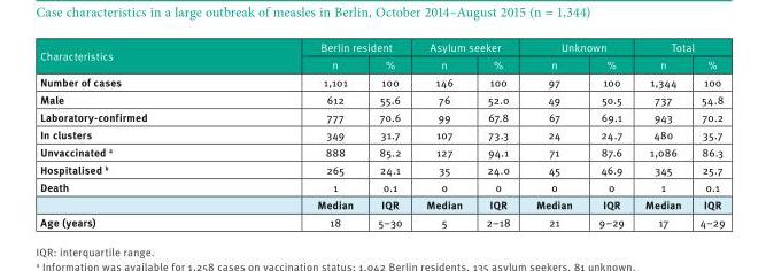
<table><thead><tr><td rowspan="2">Characteristics</td><td colspan="2">Berlin resident</td><td colspan="2">Asylum seeker</td><td colspan="2">Unknown</td><td colspan="2">Total</td></tr><tr><td>n</td><td>%</td><td>n</td><td>%</td><td>n</td><td>%</td><td>n</td><td>%</td></tr></thead><tbody><tr><td>Number of cases</td><td>1,101</td><td>100</td><td>146</td><td>100</td><td>97</td><td>100</td><td>1,344</td><td>100</td></tr><tr><td>Male</td><td>612</td><td>55.6</td><td>76</td><td>52.0</td><td>49</td><td>50.5</td><td>737</td><td>54.8</td></tr><tr><td>Laboratory-confirmed</td><td>777</td><td>70.6</td><td>99</td><td>67.8</td><td>67</td><td>69.1</td><td>943</td><td>70.2</td></tr><tr><td>In clusters</td><td>349</td><td>31.7</td><td>107</td><td>73.3</td><td>24</td><td>24.7</td><td>480</td><td>35.7</td></tr><tr><td>Unvaccinated <sup>a</sup></td><td>888</td><td>85.2</td><td>127</td><td>94.1</td><td>71</td><td>87.6</td><td>1,086</td><td>86.3</td></tr><tr><td>Hospitalised <sup>b</sup></td><td>265</td><td>24.1</td><td>35</td><td>24.0</td><td>45</td><td>46.9</td><td>345</td><td>25.7</td></tr><tr><td rowspan="2">Death</td><td>1</td><td>0.1</td><td>0</td><td>0</td><td>0</td><td>0</td><td>1</td><td>0.1</td></tr><tr><td>Median</td><td>IQR</td><td>Median</td><td>IQR</td><td>Median</td><td>IQR</td><td>Median</td><td>IQR</td></tr><tr><td>Age (years)</td><td>18</td><td>5–30</td><td>5</td><td>2–18</td><td>21</td><td>9–29</td><td>17</td><td>4–29</td></tr></tbody></table>